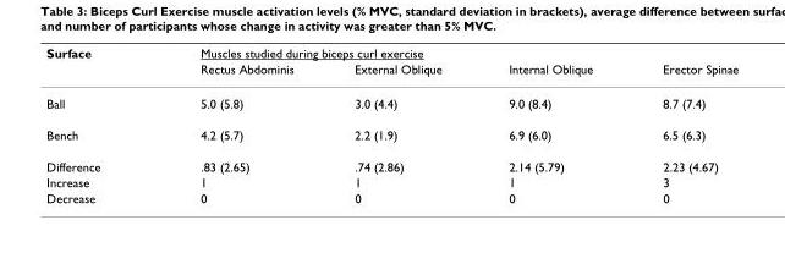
<table><thead><tr><td rowspan="2">Surface</td><td colspan="4">Muscles studied during biceps curl exercise</td></tr><tr><td>Rectus Abdominis</td><td>External Oblique</td><td>Internal Oblique</td><td>Erector Spinae</td></tr></thead><tbody><tr><td>Ball</td><td>5.0 (5.8)</td><td>3.0 (4.4)</td><td>9.0 (8.4)</td><td>8.7 (7.4)</td></tr><tr><td>Bench</td><td>4.2 (5.7)</td><td>2.2 (1.9)</td><td>6.9 (6.0)</td><td>6.5 (6.3)</td></tr><tr><td>Difference</td><td>.83 (2.65)</td><td>.74 (2.86)</td><td>2.14 (5.79)</td><td>2.23 (4.67)</td></tr><tr><td>Increase</td><td>1</td><td>1</td><td>1</td><td>3</td></tr><tr><td>Decrease</td><td>0</td><td>0</td><td>0</td><td>0</td></tr></tbody></table>